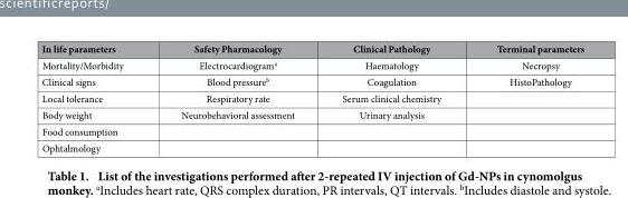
<table><thead><tr><td>In life parameters</td><td>Safety Pharmacology</td><td>Clinical Pathology</td><td>Terminal parameters</td></tr></thead><tbody><tr><td>Mortality/Morbidity</td><td>Electrocardiogram<sup>a</sup></td><td>Haematology</td><td>Necropsy</td></tr><tr><td>Clinical signs</td><td>Blood pressure<sup>b</sup></td><td>Coagulation</td><td>HistoPathology</td></tr><tr><td>Local tolerance</td><td>Respiratory rate</td><td>Serum clinical chemistry</td><td></td></tr><tr><td>Body weight</td><td>Neurobehavioral assessment</td><td>Urinary analysis</td><td></td></tr><tr><td colspan="4">Food consumption</td></tr><tr><td>Ophtalmology</td><td></td><td></td><td></td></tr></tbody></table>